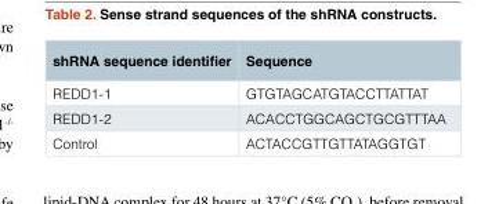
<table><thead><tr><td>shRNA sequence identifier</td><td>Sequence</td></tr></thead><tbody><tr><td>REDD1-1</td><td>GTGTAGCATGTACCTTATTAT</td></tr><tr><td>REDD1-2</td><td>ACACCTGGCAGCTGCGTTTAA</td></tr><tr><td>Control</td><td>ACTACCGTTGTTATAGGTGT</td></tr></tbody></table>